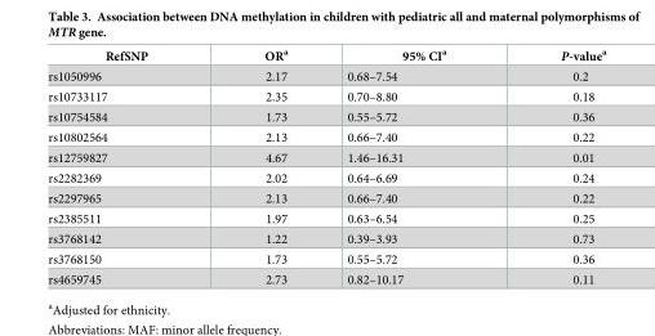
<table><thead><tr><td>RefSNP</td><td>OR<sup>a</sup></td><td>95% CI<sup>a</sup></td><td>P-value<sup>a</sup></td></tr></thead><tbody><tr><td>rs1050996</td><td>2.17</td><td>0.68–7.54</td><td>0.2</td></tr><tr><td>rs10733117</td><td>2.35</td><td>0.70–8.80</td><td>0.18</td></tr><tr><td>rs10754584</td><td>1.73</td><td>0.55–5.72</td><td>0.36</td></tr><tr><td>rs10802564</td><td>2.13</td><td>0.66–7.40</td><td>0.22</td></tr><tr><td>rs12759827</td><td>4.67</td><td>1.46–16.31</td><td>0.01</td></tr><tr><td>rs2282369</td><td>2.02</td><td>0.64–6.69</td><td>0.24</td></tr><tr><td>rs2297965</td><td>2.13</td><td>0.66–7.40</td><td>0.22</td></tr><tr><td>rs2385511</td><td>1.97</td><td>0.63–6.54</td><td>0.25</td></tr><tr><td>rs3768142</td><td>1.22</td><td>0.39–3.93</td><td>0.73</td></tr><tr><td>rs3768150</td><td>1.73</td><td>0.55–5.72</td><td>0.36</td></tr><tr><td>rs4659745</td><td>2.73</td><td>0.82–10.17</td><td>0.11</td></tr></tbody></table>